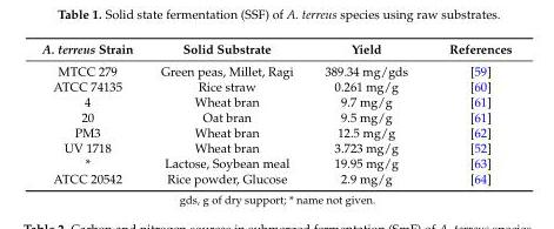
<table><thead><tr><td>A. terreus Strain</td><td>Solid Substrate</td><td>Yield</td><td>References</td></tr></thead><tbody><tr><td>MTCC 279</td><td>Green peas, Millet, Ragi</td><td>389.34 mg/gds</td><td>[59]</td></tr><tr><td>ATCC 74135</td><td>Rice straw</td><td>0.261 mg/g</td><td>[60]</td></tr><tr><td>4</td><td>Wheat bran</td><td>9.7 mg/g</td><td>[61]</td></tr><tr><td>20</td><td>Oat bran</td><td>9.5 mg/g</td><td>[61]</td></tr><tr><td>PM3</td><td>Wheat bran</td><td>12.5 mg/g</td><td>[62]</td></tr><tr><td>UV 1718</td><td>Wheat bran</td><td>3.723 mg/g</td><td>[52]</td></tr><tr><td>*</td><td>Lactose, Soybean meal</td><td>19.95 mg/g</td><td>[63]</td></tr><tr><td>ATCC 20542</td><td>Rice powder, Glucose</td><td>2.9 mg/g</td><td>[64]</td></tr></tbody></table>